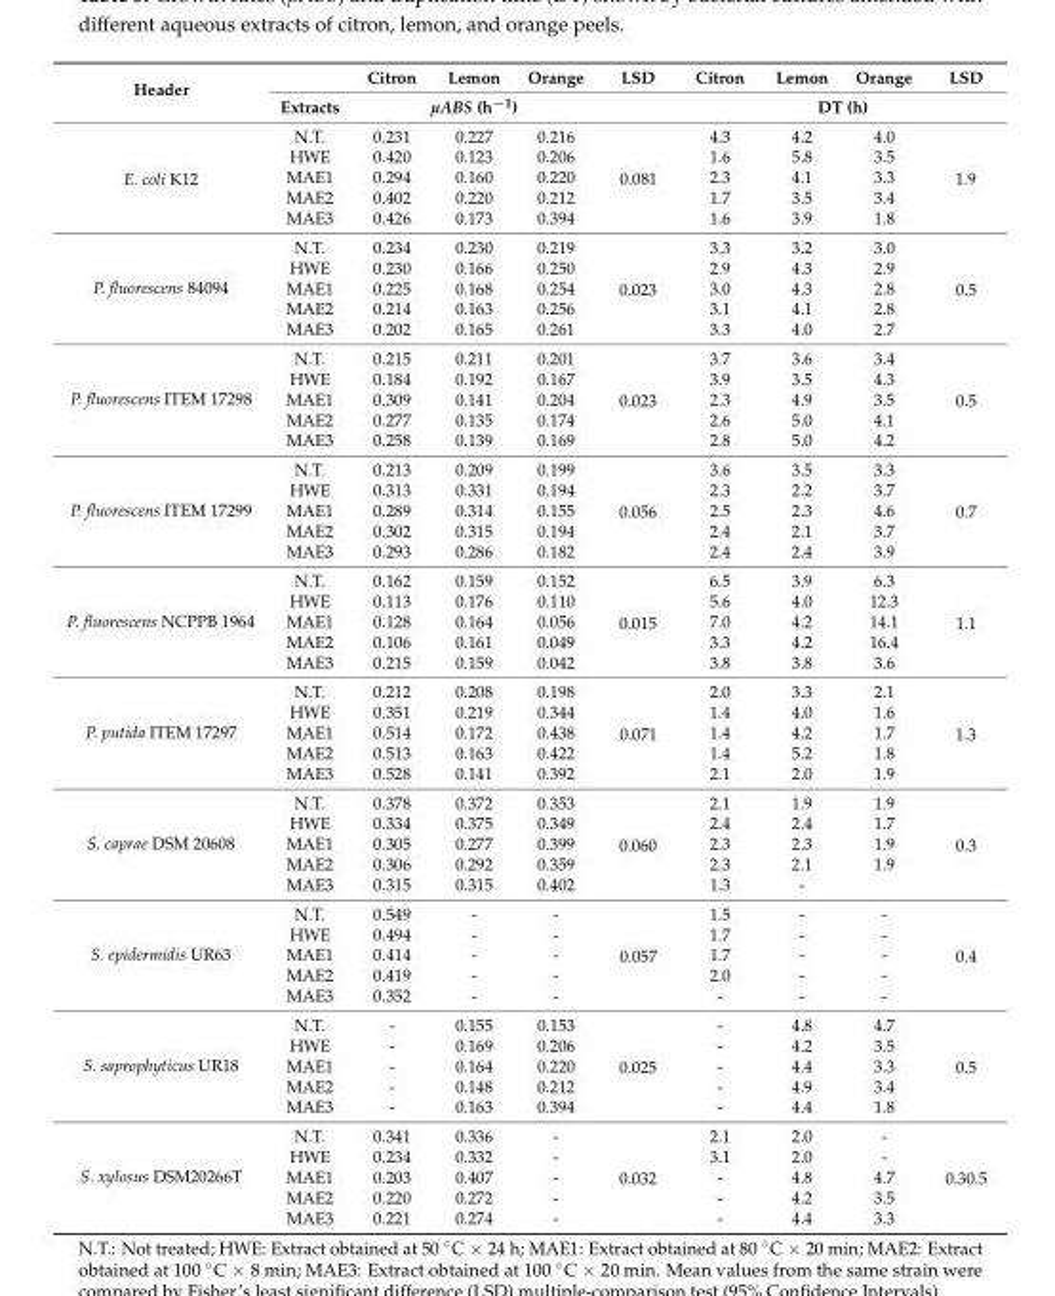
<table><thead><tr><td rowspan="2">Header</td><td rowspan="2">Extracts</td><td>Citron</td><td>Lemon</td><td>Orange</td><td rowspan="2">LSD</td><td>Citron</td><td>Lemon</td><td>Orange</td><td>LSD</td></tr><tr><td colspan="3">µABS (h<sup>−1</sup>)</td><td colspan="4">DT (h)</td></tr></thead><tbody><tr><td rowspan="5">E. coli K12</td><td>N.T.</td><td>0.231</td><td>0.227</td><td>0.216</td><td rowspan="5">0.081</td><td>4.3</td><td>4.2</td><td>4.0</td><td rowspan="5">1.9</td></tr><tr><td>HWE</td><td>0.420</td><td>0.123</td><td>0.206</td><td>1.6</td><td>5.8</td><td>3.5</td></tr><tr><td>MAE1</td><td>0.294</td><td>0.160</td><td>0.220</td><td>2.3</td><td>4.1</td><td>3.3</td></tr><tr><td>MAE2</td><td>0.402</td><td>0.220</td><td>0.212</td><td>1.7</td><td>3.5</td><td>3.4</td></tr><tr><td>MAE3</td><td>0.426</td><td>0.173</td><td>0.394</td><td>1.6</td><td>3.9</td><td>1.8</td></tr><tr><td rowspan="5">P. fluorescens 84094</td><td>N.T.</td><td>0.234</td><td>0.230</td><td>0.219</td><td rowspan="5">0.023</td><td>3.3</td><td>3.2</td><td>3.0</td><td rowspan="5">0.5</td></tr><tr><td>HWE</td><td>0.230</td><td>0.166</td><td>0.250</td><td>2.9</td><td>4.3</td><td>2.9</td></tr><tr><td>MAE1</td><td>0.225</td><td>0.168</td><td>0.254</td><td>3.0</td><td>4.3</td><td>2.8</td></tr><tr><td>MAE2</td><td>0.214</td><td>0.163</td><td>0.256</td><td>3.1</td><td>4.1</td><td>2.8</td></tr><tr><td>MAE3</td><td>0.202</td><td>0.165</td><td>0.261</td><td>3.3</td><td>4.0</td><td>2.7</td></tr><tr><td rowspan="5">P. fluorescens ITEM 17298</td><td>N.T.</td><td>0.215</td><td>0.211</td><td>0.201</td><td rowspan="5">0.023</td><td>3.7</td><td>3.6</td><td>3.4</td><td rowspan="5">0.5</td></tr><tr><td>HWE</td><td>0.184</td><td>0.192</td><td>0.167</td><td>3.9</td><td>3.5</td><td>4.3</td></tr><tr><td>MAE1</td><td>0.309</td><td>0.141</td><td>0.204</td><td>2.3</td><td>4.9</td><td>3.5</td></tr><tr><td>MAE2</td><td>0.277</td><td>0.135</td><td>0.174</td><td>2.6</td><td>5.0</td><td>4.1</td></tr><tr><td>MAE3</td><td>0.258</td><td>0.139</td><td>0.169</td><td>2.8</td><td>5.0</td><td>4.2</td></tr><tr><td rowspan="5">P. fluorescens ITEM 17299</td><td>N.T.</td><td>0.213</td><td>0.209</td><td>0.199</td><td rowspan="5">0.056</td><td>3.6</td><td>3.5</td><td>3.3</td><td rowspan="5">0.7</td></tr><tr><td>HWE</td><td>0.313</td><td>0.331</td><td>0.194</td><td>2.3</td><td>2.2</td><td>3.7</td></tr><tr><td>MAE1</td><td>0.289</td><td>0.314</td><td>0.155</td><td>2.5</td><td>2.3</td><td>4.6</td></tr><tr><td>MAE2</td><td>0.302</td><td>0.315</td><td>0.194</td><td>2.4</td><td>2.1</td><td>3.7</td></tr><tr><td>MAE3</td><td>0.293</td><td>0.286</td><td>0.182</td><td>2.4</td><td>2.4</td><td>3.9</td></tr><tr><td rowspan="5">P. fluorescens NCPPB 1964</td><td>N.T.</td><td>0.162</td><td>0.159</td><td>0.152</td><td rowspan="5">0.015</td><td>6.5</td><td>3.9</td><td>6.3</td><td rowspan="5">1.1</td></tr><tr><td>HWE</td><td>0.113</td><td>0.176</td><td>0.110</td><td>5.6</td><td>4.0</td><td>12.3</td></tr><tr><td>MAE1</td><td>0.128</td><td>0.164</td><td>0.056</td><td>7.0</td><td>4.2</td><td>14.1</td></tr><tr><td>MAE2</td><td>0.106</td><td>0.161</td><td>0.049</td><td>3.3</td><td>4.2</td><td>16.4</td></tr><tr><td>MAE3</td><td>0.215</td><td>0.159</td><td>0.042</td><td>3.8</td><td>3.8</td><td>3.6</td></tr><tr><td rowspan="5">P. putida ITEM 17297</td><td>N.T.</td><td>0.212</td><td>0.208</td><td>0.198</td><td rowspan="5">0.071</td><td>2.0</td><td>3.3</td><td>2.1</td><td rowspan="5">1.3</td></tr><tr><td>HWE</td><td>0.351</td><td>0.219</td><td>0.344</td><td>1.4</td><td>4.0</td><td>1.6</td></tr><tr><td>MAE1</td><td>0.514</td><td>0.172</td><td>0.438</td><td>1.4</td><td>4.2</td><td>1.7</td></tr><tr><td>MAE2</td><td>0.513</td><td>0.163</td><td>0.422</td><td>1.4</td><td>5.2</td><td>1.8</td></tr><tr><td>MAE3</td><td>0.528</td><td>0.141</td><td>0.392</td><td>2.1</td><td>2.0</td><td>1.9</td></tr><tr><td rowspan="5">S. caprae DSM 20608</td><td>N.T.</td><td>0.378</td><td>0.372</td><td>0.353</td><td rowspan="5">0.060</td><td>2.1</td><td>1.9</td><td>1.9</td><td rowspan="5">0.3</td></tr><tr><td>HWE</td><td>0.334</td><td>0.375</td><td>0.349</td><td>2.4</td><td>2.4</td><td>1.7</td></tr><tr><td>MAE1</td><td>0.305</td><td>0.277</td><td>0.399</td><td>2.3</td><td>2.3</td><td>1.9</td></tr><tr><td>MAE2</td><td>0.306</td><td>0.292</td><td>0.359</td><td>2.3</td><td>2.1</td><td>1.9</td></tr><tr><td>MAE3</td><td>0.315</td><td>0.315</td><td>0.402</td><td>1.3</td><td>-</td><td></td></tr><tr><td rowspan="5">S. epidermidis UR63</td><td>N.T.</td><td>0.549</td><td>-</td><td>-</td><td rowspan="5">0.057</td><td>1.5</td><td>-</td><td>-</td><td rowspan="5">0.4</td></tr><tr><td>HWE</td><td>0.494</td><td>-</td><td>-</td><td>1.7</td><td>-</td><td>-</td></tr><tr><td>MAE1</td><td>0.414</td><td>-</td><td>-</td><td>1.7</td><td>-</td><td>-</td></tr><tr><td>MAE2</td><td>0.419</td><td>-</td><td>-</td><td>2.0</td><td>-</td><td>-</td></tr><tr><td>MAE3</td><td>0.352</td><td>-</td><td>-</td><td>-</td><td>-</td><td>-</td></tr><tr><td rowspan="5">S. saprophyticus UR18</td><td>N.T.</td><td>-</td><td>0.155</td><td>0.153</td><td rowspan="5">0.025</td><td>-</td><td>4.8</td><td>4.7</td><td rowspan="5">0.5</td></tr><tr><td>HWE</td><td>-</td><td>0.169</td><td>0.206</td><td>-</td><td>4.2</td><td>3.5</td></tr><tr><td>MAE1</td><td>-</td><td>0.164</td><td>0.220</td><td>-</td><td>4.4</td><td>3.3</td></tr><tr><td>MAE2</td><td>-</td><td>0.148</td><td>0.212</td><td>-</td><td>4.9</td><td>3.4</td></tr><tr><td>MAE3</td><td>-</td><td>0.163</td><td>0.394</td><td>-</td><td>4.4</td><td>1.8</td></tr><tr><td rowspan="5">S. xylosus DSM20266T</td><td>N.T.</td><td>0.341</td><td>0.336</td><td>-</td><td rowspan="5">0.032</td><td>2.1</td><td>2.0</td><td>-</td><td rowspan="5">0.30.5</td></tr><tr><td>HWE</td><td>0.234</td><td>0.332</td><td>-</td><td>3.1</td><td>2.0</td><td>-</td></tr><tr><td>MAE1</td><td>0.203</td><td>0.407</td><td>-</td><td>-</td><td>4.8</td><td>4.7</td></tr><tr><td>MAE2</td><td>0.220</td><td>0.272</td><td>-</td><td>-</td><td>4.2</td><td>3.5</td></tr><tr><td>MAE3</td><td>0.221</td><td>0.274</td><td>-</td><td>-</td><td>4.4</td><td>3.3</td></tr></tbody></table>